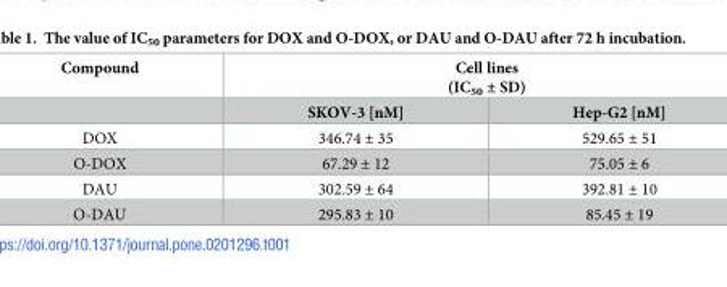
<table><thead><tr><td rowspan="2">Compound</td><td colspan="2">Cell lines (IC<sub>50</sub> ± SD)</td></tr><tr><td>SKOV-3 [nM]</td><td>Hep-G2 [nM]</td></tr></thead><tbody><tr><td>DOX</td><td>346.74 ± 35</td><td>529.65 ± 51</td></tr><tr><td>O-DOX</td><td>67.29 ± 12</td><td>75.05 ± 6</td></tr><tr><td>DAU</td><td>302.59 ± 64</td><td>392.81 ± 10</td></tr><tr><td>O-DAU</td><td>295.83 ± 10</td><td>85.45 ± 19</td></tr></tbody></table>